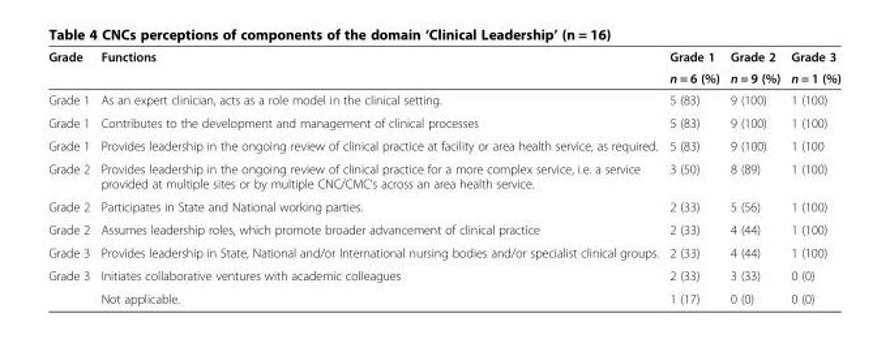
<table><thead><tr><td rowspan="2">Grade</td><td rowspan="2">Functions</td><td rowspan="2">Grade 1 n = 6 (%)</td><td rowspan="2">Grade 2 n = 9 (%)</td><td rowspan="2">Grade 3 n = 1 (%)</td></tr><tr></tr></thead><tbody><tr><td>Grade 1</td><td>As an expert clinician, acts as a role model in the clinical setting.</td><td>5 (83)</td><td>9 (100)</td><td>1 (100)</td></tr><tr><td>Grade 1</td><td>Contributes to the development and management of clinical processes</td><td>5 (83)</td><td>9 (100)</td><td>1 (100)</td></tr><tr><td>Grade 1</td><td>Provides leadership in the ongoing review of clinical practice at facility or area health service, as required.</td><td>5 (83)</td><td>9 (100)</td><td>1 (100</td></tr><tr><td>Grade 2</td><td>Provides leadership in the ongoing review of clinical practice for a more complex service, i.e. a service provided at multiple sites or by multiple CNC/CMC’s across an area health service.</td><td>3 (50)</td><td>8 (89)</td><td>1 (100)</td></tr><tr><td>Grade 2</td><td>Participates in State and National working parties.</td><td>2 (33)</td><td>5 (56)</td><td>1 (100)</td></tr><tr><td>Grade 2</td><td>Assumes leadership roles, which promote broader advancement of clinical practice</td><td>2 (33)</td><td>4 (44)</td><td>1 (100)</td></tr><tr><td>Grade 3</td><td>Provides leadership in State, National and/or International nursing bodies and/or specialist clinical groups.</td><td>2 (33)</td><td>4 (44)</td><td>1 (100)</td></tr><tr><td rowspan="2">Grade 3</td><td>Initiates collaborative ventures with academic colleagues</td><td>2 (33)</td><td>3 (33)</td><td>0 (0)</td></tr><tr><td>Not applicable.</td><td>1 (17)</td><td>0 (0)</td><td>0 (0)</td></tr></tbody></table>